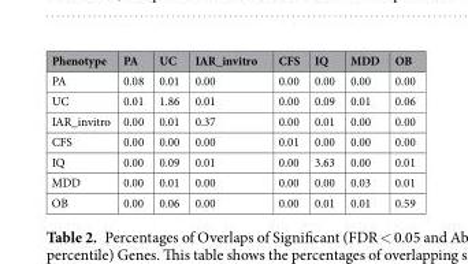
<table><thead><tr><td>Phenotype</td><td>PA</td><td>UC</td><td>IAR_invitro</td><td>CFS</td><td>IQ</td><td>MDD</td><td>OB</td></tr></thead><tbody><tr><td>PA</td><td>0.08</td><td>0.01</td><td>0.00</td><td>0.00</td><td>0.00</td><td>0.00</td><td>0.00</td></tr><tr><td>UC</td><td>0.01</td><td>1.86</td><td>0.01</td><td>0.00</td><td>0.09</td><td>0.01</td><td>0.06</td></tr><tr><td>IAR_invitro</td><td>0.00</td><td>0.01</td><td>0.37</td><td>0.00</td><td>0.01</td><td>0.00</td><td>0.00</td></tr><tr><td>CFS</td><td>0.00</td><td>0.00</td><td>0.00</td><td>0.01</td><td>0.00</td><td>0.00</td><td>0.00</td></tr><tr><td>IQ</td><td>0.00</td><td>0.09</td><td>0.01</td><td>0.00</td><td>3.63</td><td>0.00</td><td>0.01</td></tr><tr><td>MDD</td><td>0.00</td><td>0.01</td><td>0.00</td><td>0.00</td><td>0.00</td><td>0.03</td><td>0.01</td></tr><tr><td>OB</td><td>0.00</td><td>0.06</td><td>0.00</td><td>0.00</td><td>0.01</td><td>0.01</td><td>0.59</td></tr></tbody></table>